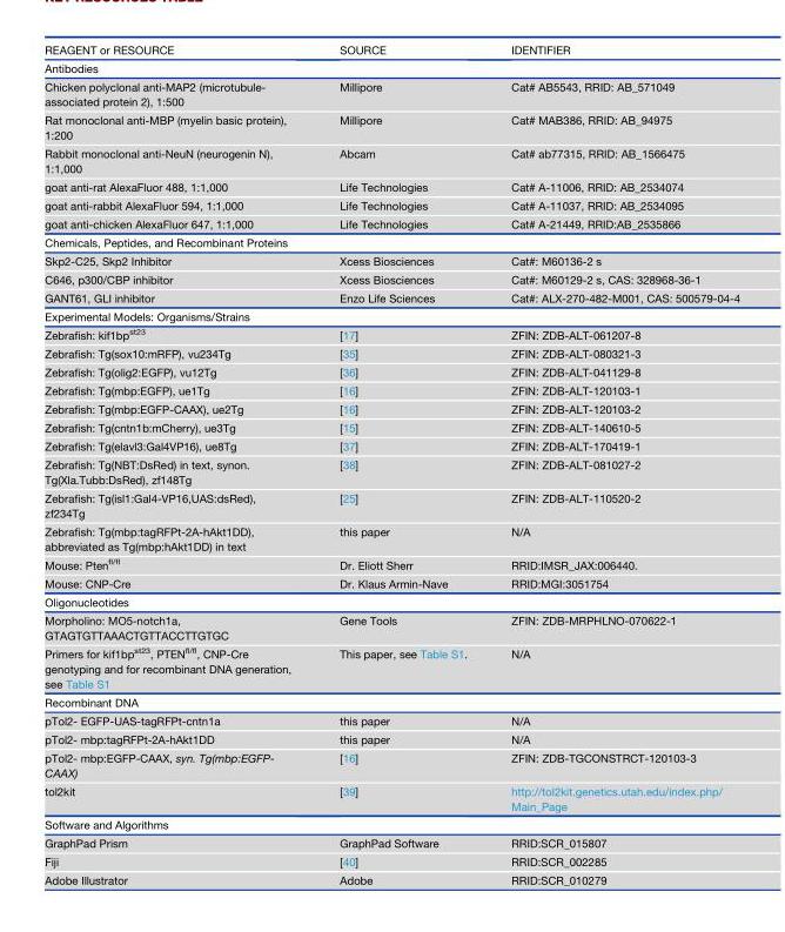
<table><thead><tr><td>REAGENT or RESOURCE</td><td>SOURCE</td><td>IDENTIFIER</td></tr></thead><tbody><tr><td colspan="3">Antibodies</td></tr><tr><td>Chicken polyclonal anti-MAP2 (microtubule- associated protein 2), 1:500</td><td>Millipore</td><td>Cat# AB5543, RRID: AB_571049</td></tr><tr><td>Rat monoclonal anti-MBP (myelin basic protein), 1:200</td><td>Millipore</td><td>Cat# MAB386, RRID: AB_94975</td></tr><tr><td>Rabbit monoclonal anti-NeuN (neurogenin N), 1:1,000</td><td>Abcam</td><td>Cat# ab77315, RRID: AB_1566475</td></tr><tr><td>goat anti-rat AlexaFluor 488, 1:1,000</td><td>Life Technologies</td><td>Cat# A-11006, RRID: AB_2534074</td></tr><tr><td>goat anti-rabbit AlexaFluor 594, 1:1,000</td><td>Life Technologies</td><td>Cat# A-11037, RRID: AB_2534095</td></tr><tr><td>goat anti-chicken AlexaFluor 647, 1:1,000</td><td>Life Technologies</td><td>Cat# A-21449, RRID:AB_2535866</td></tr><tr><td colspan="3">Chemicals, Peptides, and Recombinant Proteins</td></tr><tr><td>Skp2-C25, Skp2 Inhibitor</td><td>Xcess Biosciences</td><td>Cat#: M60136-2 s</td></tr><tr><td>C646, p300/CBP inhibitor</td><td>Xcess Biosciences</td><td>Cat#: M60129-2 s, CAS: 328968-36-1</td></tr><tr><td>GANT61, GLI inhibitor</td><td>Enzo Life Sciences</td><td>Cat#: ALX-270-482-M001, CAS: 500579-04-4</td></tr><tr><td colspan="3">Experimental Models: Organisms/Strains</td></tr><tr><td>Zebrafish: kif1bp<sup>st23</sup></td><td>[17]</td><td>ZFIN: ZDB-ALT-061207-8</td></tr><tr><td>Zebrafish: Tg(sox10:mRFP), vu234Tg</td><td>[35]</td><td>ZFIN: ZDB-ALT-080321-3</td></tr><tr><td>Zebrafish: Tg(olig2:EGFP), vu12Tg</td><td>[36]</td><td>ZFIN: ZDB-ALT-041129-8</td></tr><tr><td>Zebrafish: Tg(mbp:EGFP), ue1Tg</td><td>[16]</td><td>ZFIN: ZDB-ALT-120103-1</td></tr><tr><td>Zebrafish: Tg(mbp:EGFP-CAAX), ue2Tg</td><td>[16]</td><td>ZFIN: ZDB-ALT-120103-2</td></tr><tr><td>Zebrafish: Tg(cntn1b:mCherry), ue3Tg</td><td>[15]</td><td>ZFIN: ZDB-ALT-140610-5</td></tr><tr><td>Zebrafish: Tg(elavl3:Gal4VP16), ue8Tg</td><td>[37]</td><td>ZFIN: ZDB-ALT-170419-1</td></tr><tr><td>Zebrafish: Tg(NBT:DsRed) in text, synon. Tg(Xla.Tubb:DsRed), zf148Tg</td><td>[38]</td><td>ZFIN: ZDB-ALT-081027-2</td></tr><tr><td>Zebrafish: Tg(isl1:Gal4-VP16,UAS:dsRed), zf234Tg</td><td>[25]</td><td>ZFIN: ZDB-ALT-110520-2</td></tr><tr><td>Zebrafish: Tg(mbp:tagRFPt-2A-hAkt1DD), abbreviated as Tg(mbp:hAkt1DD) in text</td><td>this paper</td><td>N/A</td></tr><tr><td>Mouse: Pten<sup>fl/fl</sup></td><td>Dr. Eliott Sherr</td><td>RRID:IMSR_JAX:006440.</td></tr><tr><td>Mouse: CNP-Cre</td><td>Dr. Klaus Armin-Nave</td><td>RRID:MGI:3051754</td></tr><tr><td colspan="3">Oligonucleotides</td></tr><tr><td>Morpholino: MO5-notch1a, GTAGTGTTAAACTGTTACCTTGTGC</td><td>Gene Tools</td><td>ZFIN: ZDB-MRPHLNO-070622-1</td></tr><tr><td>Primers for kif1bp<sup>st23</sup>, PTEN<sup>fl/fl</sup>, CNP-Cre genotyping and for recombinant DNA generation, see Table S1</td><td>This paper, see Table S1.</td><td>N/A</td></tr><tr><td colspan="3">Recombinant DNA</td></tr><tr><td>pTol2- EGFP-UAS-tagRFPt-cntn1a</td><td>this paper</td><td>N/A</td></tr><tr><td>pTol2- mbp:tagRFPt-2A-hAkt1DD</td><td>this paper</td><td>N/A</td></tr><tr><td>pTol2- mbp:EGFP-CAAX, syn. Tg(mbp:EGFP- CAAX)</td><td>[16]</td><td>ZFIN: ZDB-TGCONSTRCT-120103-3</td></tr><tr><td>tol2kit</td><td>[39]</td><td>http://tol2kit.genetics.utah.edu/index.php/ Main_Page</td></tr><tr><td colspan="3">Software and Algorithms</td></tr><tr><td>GraphPad Prism</td><td>GraphPad Software</td><td>RRID:SCR_015807</td></tr><tr><td>Fiji</td><td>[40]</td><td>RRID:SCR_002285</td></tr><tr><td>Adobe Illustrator</td><td>Adobe</td><td>RRID:SCR_010279</td></tr></tbody></table>